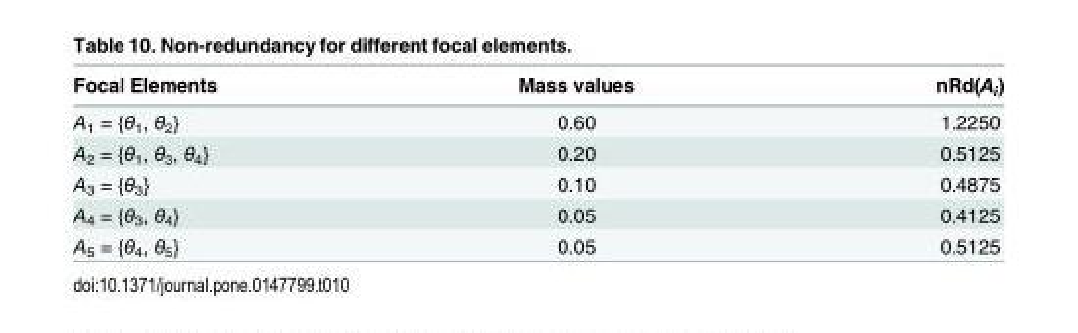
<table><thead><tr><td>Focal Elements</td><td>Mass values</td><td>nRd(A<sub>i</sub>)</td></tr></thead><tbody><tr><td>A<sub>1</sub> = {θ<sub>1</sub>, θ<sub>2</sub>}</td><td>0.60</td><td>1.2250</td></tr><tr><td>A<sub>2</sub> = {θ<sub>1</sub>, θ<sub>3</sub>, θ<sub>4</sub>}</td><td>0.20</td><td>0.5125</td></tr><tr><td>A<sub>3</sub> = {θ<sub>3</sub>}</td><td>0.10</td><td>0.4875</td></tr><tr><td>A<sub>4</sub> = {θ<sub>3</sub>, θ<sub>4</sub>}</td><td>0.05</td><td>0.4125</td></tr><tr><td>A<sub>5</sub> = {θ<sub>4</sub>, θ<sub>5</sub>}</td><td>0.05</td><td>0.5125</td></tr></tbody></table>